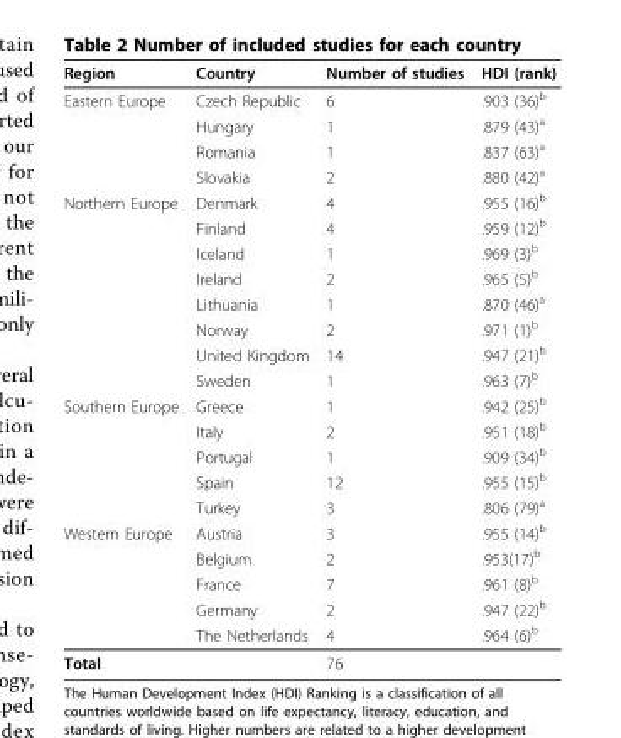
<table><thead><tr><td>Region</td><td>Country</td><td>Number of studies</td><td>HDI (rank)</td></tr></thead><tbody><tr><td rowspan="4">Eastern Europe</td><td>Czech Republic</td><td>6</td><td>.903 (36)<sup>b</sup></td></tr><tr><td>Hungary</td><td>1</td><td>.879 (43)<sup>a</sup></td></tr><tr><td>Romania</td><td>1</td><td>.837 (63)<sup>a</sup></td></tr><tr><td>Slovakia</td><td>2</td><td>.880 (42)<sup>a</sup></td></tr><tr><td rowspan="8">Northern Europe</td><td>Denmark</td><td>4</td><td>.955 (16)<sup>b</sup></td></tr><tr><td>Finland</td><td>4</td><td>.959 (12)<sup>b</sup></td></tr><tr><td>Iceland</td><td>1</td><td>.969 (3)<sup>b</sup></td></tr><tr><td>Ireland</td><td>2</td><td>.965 (5)<sup>b</sup></td></tr><tr><td>Lithuania</td><td>1</td><td>.870 (46)<sup>a</sup></td></tr><tr><td>Norway</td><td>2</td><td>.971 (1)<sup>b</sup></td></tr><tr><td>United Kingdom</td><td>14</td><td>.947 (21)<sup>b</sup></td></tr><tr><td>Sweden</td><td>1</td><td>.963 (7)<sup>b</sup></td></tr><tr><td rowspan="5">Southern Europe</td><td>Greece</td><td>1</td><td>.942 (25)<sup>b</sup></td></tr><tr><td>Italy</td><td>2</td><td>.951 (18)<sup>b</sup></td></tr><tr><td>Portugal</td><td>1</td><td>.909 (34)<sup>b</sup></td></tr><tr><td>Spain</td><td>12</td><td>.955 (15)<sup>b</sup></td></tr><tr><td>Turkey</td><td>3</td><td>.806 (79)<sup>a</sup></td></tr><tr><td rowspan="5">Western Europe</td><td>Austria</td><td>3</td><td>.955 (14)<sup>b</sup></td></tr><tr><td>Belgium</td><td>2</td><td>.953(17)<sup>b</sup></td></tr><tr><td>France</td><td>7</td><td>.961 (8)<sup>b</sup></td></tr><tr><td>Germany</td><td>2</td><td>.947 (22)<sup>b</sup></td></tr><tr><td>The Netherlands</td><td>4</td><td>.964 (6)<sup>b</sup></td></tr><tr><td>Total</td><td></td><td>76</td><td></td></tr></tbody></table>